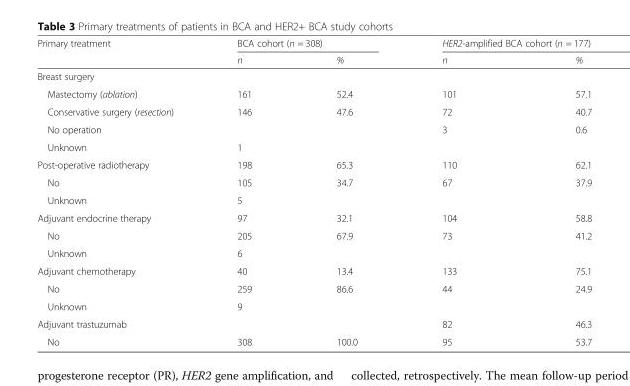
<table><thead><tr><td rowspan="2">Primary treatment</td><td colspan="2">BCA cohort (n = 308)</td><td colspan="2">HER2-amplified BCA cohort (n = 177)</td></tr><tr><td>n</td><td>%</td><td>n</td><td>%</td></tr></thead><tbody><tr><td colspan="5">Breast surgery</td></tr><tr><td>Mastectomy (ablation)</td><td>161</td><td>52.4</td><td>101</td><td>57.1</td></tr><tr><td>Conservative surgery (resection)</td><td>146</td><td>47.6</td><td>72</td><td>40.7</td></tr><tr><td>No operation</td><td></td><td></td><td>3</td><td>0.6</td></tr><tr><td>Unknown</td><td>1</td><td></td><td></td><td></td></tr><tr><td>Post-operative radiotherapy</td><td>198</td><td>65.3</td><td>110</td><td>62.1</td></tr><tr><td>No</td><td>105</td><td>34.7</td><td>67</td><td>37.9</td></tr><tr><td>Unknown</td><td>5</td><td></td><td></td><td></td></tr><tr><td>Adjuvant endocrine therapy</td><td>97</td><td>32.1</td><td>104</td><td>58.8</td></tr><tr><td>No</td><td>205</td><td>67.9</td><td>73</td><td>41.2</td></tr><tr><td>Unknown</td><td>6</td><td></td><td></td><td></td></tr><tr><td>Adjuvant chemotherapy</td><td>40</td><td>13.4</td><td>133</td><td>75.1</td></tr><tr><td>No</td><td>259</td><td>86.6</td><td>44</td><td>24.9</td></tr><tr><td>Unknown</td><td>9</td><td></td><td></td><td></td></tr><tr><td>Adjuvant trastuzumab</td><td></td><td></td><td>82</td><td>46.3</td></tr><tr><td>No</td><td>308</td><td>100.0</td><td>95</td><td>53.7</td></tr></tbody></table>